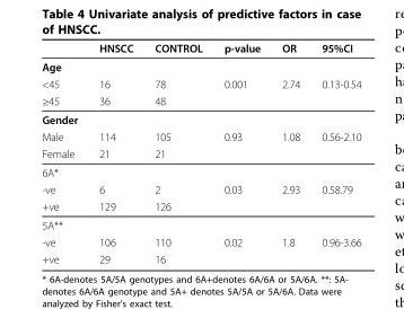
<table><thead><tr><td></td><td>HNSCC</td><td>CONTROL</td><td>p-value</td><td>OR</td><td>95%CI</td></tr></thead><tbody><tr><td colspan="6">Age</td></tr><tr><td>&lt;45</td><td>16</td><td>78</td><td>0.001</td><td>2.74</td><td>0.13-0.54</td></tr><tr><td>≥45</td><td>36</td><td>48</td><td></td><td></td><td></td></tr><tr><td colspan="6">Gender</td></tr><tr><td>Male</td><td>114</td><td>105</td><td>0.93</td><td>1.08</td><td>0.56-2.10</td></tr><tr><td>Female</td><td>21</td><td>21</td><td></td><td></td><td></td></tr><tr><td colspan="6">6A*</td></tr><tr><td>-ve</td><td>6</td><td>2</td><td>0.03</td><td>2.93</td><td>0.58.79</td></tr><tr><td>+ve</td><td>129</td><td>126</td><td></td><td></td><td></td></tr><tr><td colspan="6">5A**</td></tr><tr><td>-ve</td><td>106</td><td>110</td><td>0.02</td><td>1.8</td><td>0.96-3.66</td></tr><tr><td>+ve</td><td>29</td><td>16</td><td></td><td></td><td></td></tr></tbody></table>